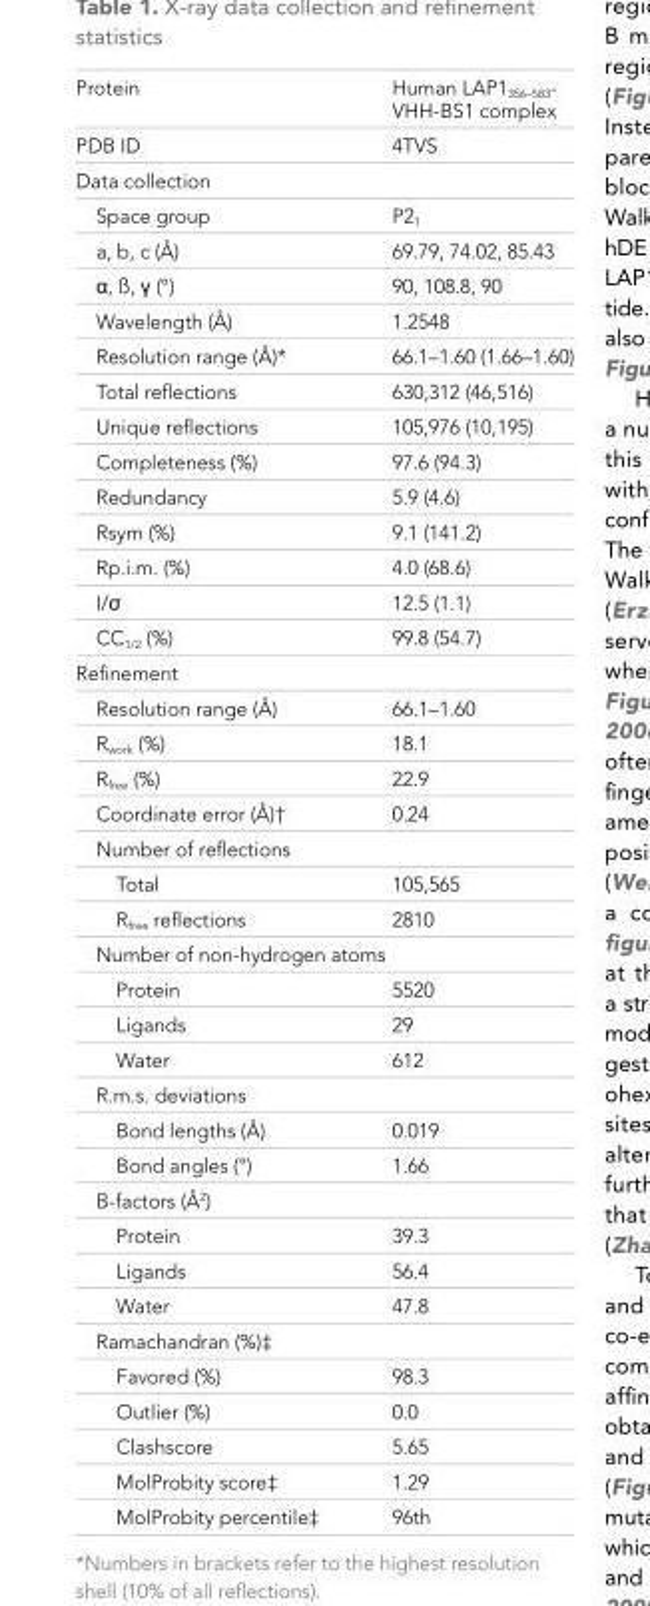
<table><tbody><tr><td>Protein</td><td>Human LAP1<sub>356–583</sub>- VHH-BS1 complex</td></tr><tr><td>PDB ID</td><td>4TVS</td></tr><tr><td colspan="2">Data collection</td></tr><tr><td>Space group</td><td>P2<sub>1</sub></td></tr><tr><td>a, b, c (Å)</td><td>69.79, 74.02, 85.43</td></tr><tr><td>α, ß, γ (°)</td><td>90, 108.8, 90</td></tr><tr><td>Wavelength (Å)</td><td>1.2548</td></tr><tr><td>Resolution range (Å)*</td><td>66.1–1.60 (1.66–1.60)</td></tr><tr><td>Total reflections</td><td>630,312 (46,516)</td></tr><tr><td>Unique reflections</td><td>105,976 (10,195)</td></tr><tr><td>Completeness (%)</td><td>97.6 (94.3)</td></tr><tr><td>Redundancy</td><td>5.9 (4.6)</td></tr><tr><td>Rsym (%)</td><td>9.1 (141.2)</td></tr><tr><td>Rp.i.m. (%)</td><td>4.0 (68.6)</td></tr><tr><td>I/σ</td><td>12.5 (1.1)</td></tr><tr><td>CC<sub>1/2</sub> (%)</td><td>99.8 (54.7)</td></tr><tr><td colspan="2">Refinement</td></tr><tr><td>Resolution range (Å)</td><td>66.1–1.60</td></tr><tr><td>R<sub>work</sub> (%)</td><td>18.1</td></tr><tr><td>R<sub>free</sub> (%)</td><td>22.9</td></tr><tr><td>Coordinate error (Å)†</td><td>0.24</td></tr><tr><td colspan="2">Number of reflections</td></tr><tr><td>Total</td><td>105,565</td></tr><tr><td>R<sub>free</sub> reflections</td><td>2810</td></tr><tr><td colspan="2">Number of non-hydrogen atoms</td></tr><tr><td>Protein</td><td>5520</td></tr><tr><td>Ligands</td><td>29</td></tr><tr><td>Water</td><td>612</td></tr><tr><td colspan="2">R.m.s. deviations</td></tr><tr><td>Bond lengths (Å)</td><td>0.019</td></tr><tr><td>Bond angles (°)</td><td>1.66</td></tr><tr><td colspan="2">B-factors (Å<sup>2</sup>)</td></tr><tr><td>Protein</td><td>39.3</td></tr><tr><td>Ligands</td><td>56.4</td></tr><tr><td>Water</td><td>47.8</td></tr><tr><td colspan="2">Ramachandran (%)‡</td></tr><tr><td>Favored (%)</td><td>98.3</td></tr><tr><td>Outlier (%)</td><td>0.0</td></tr><tr><td>Clashscore</td><td>5.65</td></tr><tr><td>MolProbity score‡</td><td>1.29</td></tr><tr><td>MolProbity percentile‡</td><td>96th</td></tr></tbody></table>